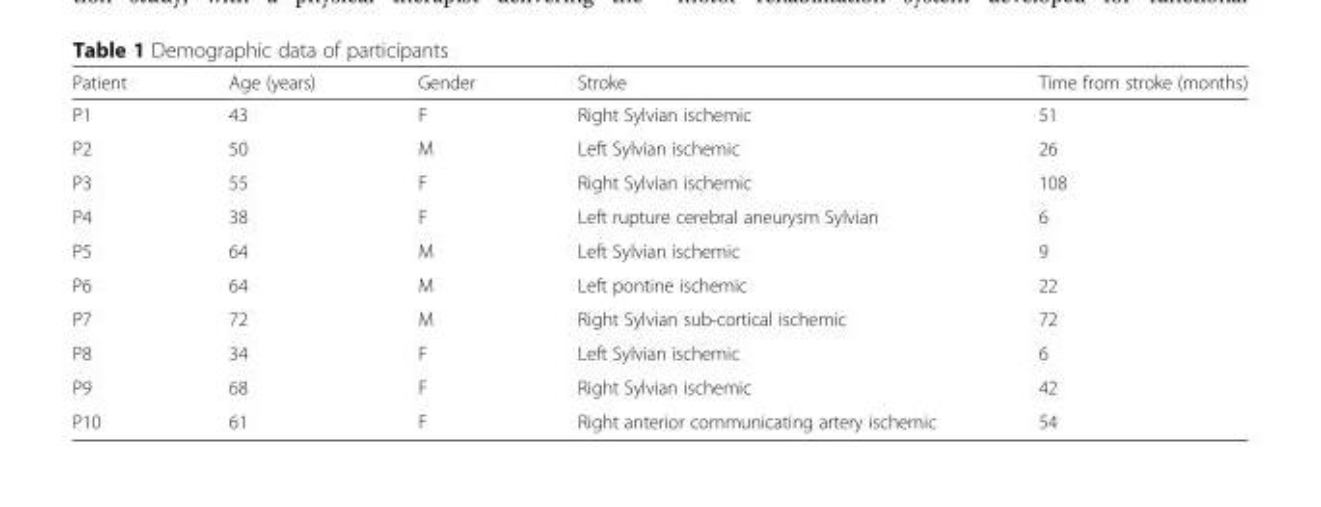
<table><thead><tr><td>Patient</td><td>Age (years)</td><td>Gender</td><td>Stroke</td><td>Time from stroke (months)</td></tr></thead><tbody><tr><td>P1</td><td>43</td><td>F</td><td>Right Sylvian ischemic</td><td>51</td></tr><tr><td>P2</td><td>50</td><td>M</td><td>Left Sylvian ischemic</td><td>26</td></tr><tr><td>P3</td><td>55</td><td>F</td><td>Right Sylvian ischemic</td><td>108</td></tr><tr><td>P4</td><td>38</td><td>F</td><td>Left rupture cerebral aneurysm Sylvian</td><td>6</td></tr><tr><td>P5</td><td>64</td><td>M</td><td>Left Sylvian ischemic</td><td>9</td></tr><tr><td>P6</td><td>64</td><td>M</td><td>Left pontine ischemic</td><td>22</td></tr><tr><td>P7</td><td>72</td><td>M</td><td>Right Sylvian sub-cortical ischemic</td><td>72</td></tr><tr><td>P8</td><td>34</td><td>F</td><td>Left Sylvian ischemic</td><td>6</td></tr><tr><td>P9</td><td>68</td><td>F</td><td>Right Sylvian ischemic</td><td>42</td></tr><tr><td>P10</td><td>61</td><td>F</td><td>Right anterior communicating artery ischemic</td><td>54</td></tr></tbody></table>